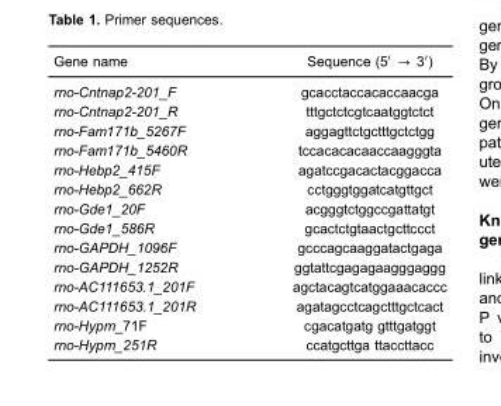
<table><thead><tr><td>Gene name</td><td>Sequence (50 - 30)</td></tr></thead><tbody><tr><td>rno-Cntnap2-201_F</td><td>gcacctaccacaccaacga</td></tr><tr><td>rno-Cntnap2-201_R</td><td>tttgctctcgtcaatggtctct</td></tr><tr><td>rno-Fam171b_5267F</td><td>aggagttctgctttgctctgg</td></tr><tr><td>rno-Fam171b_5460R</td><td>tccacacacaaccaagggta</td></tr><tr><td>rno-Hebp2_415F</td><td>agatccgacactacggacca</td></tr><tr><td>rno-Hebp2_662R</td><td>cctgggtggatcatgttgct</td></tr><tr><td>rno-Gde1_20F</td><td>acgggtctggccgattatgt</td></tr><tr><td>rno-Gde1_586R</td><td>gcactctgtaactgcttccct</td></tr><tr><td>rno-GAPDH_1096F</td><td>gcccagcaaggatactgaga</td></tr><tr><td>rno-GAPDH_1252R</td><td>ggtattcgagagaagggaggg</td></tr><tr><td>rno-AC111653.1_201F</td><td>agctacagtcatggaaacaccc</td></tr><tr><td>rno-AC111653.1_201R</td><td>agatagcctcagctttgctcact</td></tr><tr><td>rno-Hypm_71F</td><td>cgacatgatg gtttgatggt</td></tr><tr><td>rno-Hypm_251R</td><td>ccatgcttga ttaccttacc</td></tr></tbody></table>